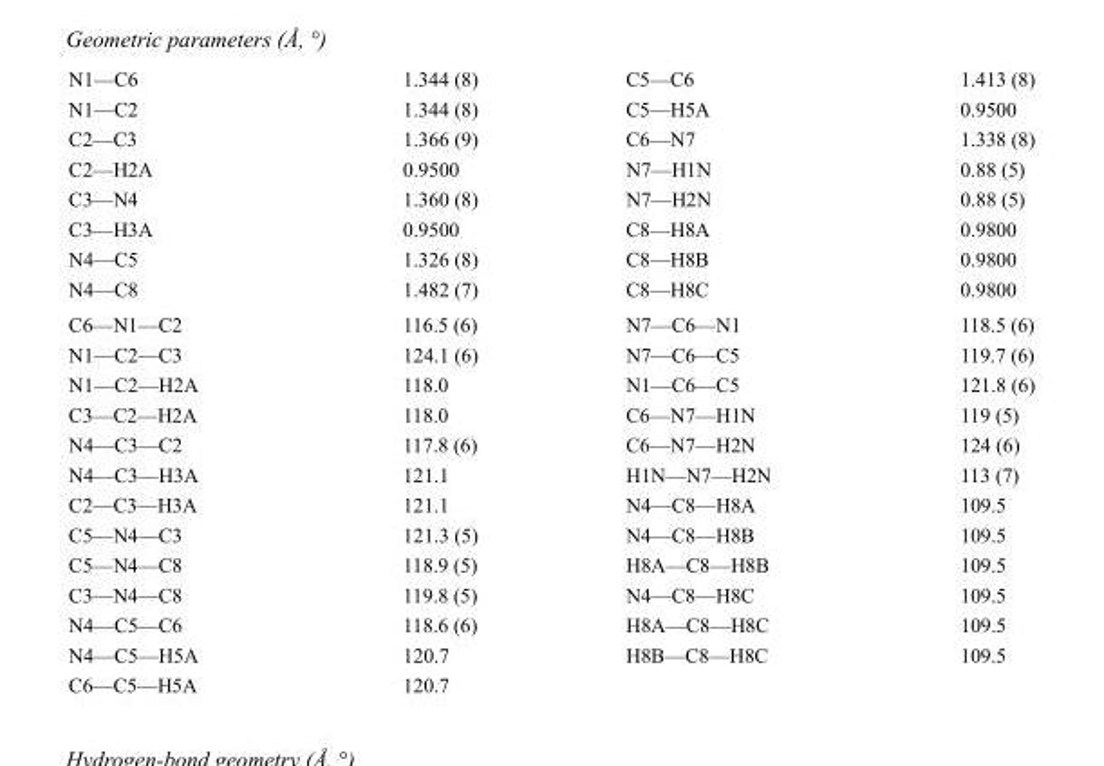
<table><tbody><tr><td>N1—C6</td><td>1.344 (8)</td><td>C5—C6</td><td>1.413 (8)</td></tr><tr><td>N1—C2</td><td>1.344 (8)</td><td>C5—H5A</td><td>0.9500</td></tr><tr><td>C2—C3</td><td>1.366 (9)</td><td>C6—N7</td><td>1.338 (8)</td></tr><tr><td>C2—H2A</td><td>0.9500</td><td>N7—H1N</td><td>0.88 (5)</td></tr><tr><td>C3—N4</td><td>1.360 (8)</td><td>N7—H2N</td><td>0.88 (5)</td></tr><tr><td>C3—H3A</td><td>0.9500</td><td>C8—H8A</td><td>0.9800</td></tr><tr><td>N4—C5</td><td>1.326 (8)</td><td>C8—H8B</td><td>0.9800</td></tr><tr><td>N4—C8</td><td>1.482 (7)</td><td>C8—H8C</td><td>0.9800</td></tr><tr><td>C6—N1—C2</td><td>116.5 (6)</td><td>N7—C6—N1</td><td>118.5 (6)</td></tr><tr><td>N1—C2—C3</td><td>124.1 (6)</td><td>N7—C6—C5</td><td>119.7 (6)</td></tr><tr><td>N1—C2—H2A</td><td>118.0</td><td>N1—C6—C5</td><td>121.8 (6)</td></tr><tr><td>C3—C2—H2A</td><td>118.0</td><td>C6—N7—H1N</td><td>119 (5)</td></tr><tr><td>N4—C3—C2</td><td>117.8 (6)</td><td>C6—N7—H2N</td><td>124 (6)</td></tr><tr><td>N4—C3—H3A</td><td>121.1</td><td>H1N—N7—H2N</td><td>113 (7)</td></tr><tr><td>C2—C3—H3A</td><td>121.1</td><td>N4—C8—H8A</td><td>109.5</td></tr><tr><td>C5—N4—C3</td><td>121.3 (5)</td><td>N4—C8—H8B</td><td>109.5</td></tr><tr><td>C5—N4—C8</td><td>118.9 (5)</td><td>H8A—C8—H8B</td><td>109.5</td></tr><tr><td>C3—N4—C8</td><td>119.8 (5)</td><td>N4—C8—H8C</td><td>109.5</td></tr><tr><td>N4—C5—C6</td><td>118.6 (6)</td><td>H8A—C8—H8C</td><td>109.5</td></tr><tr><td>N4—C5—H5A</td><td>120.7</td><td>H8B—C8—H8C</td><td>109.5</td></tr><tr><td>C6—C5—H5A</td><td>120.7</td><td></td><td></td></tr></tbody></table>